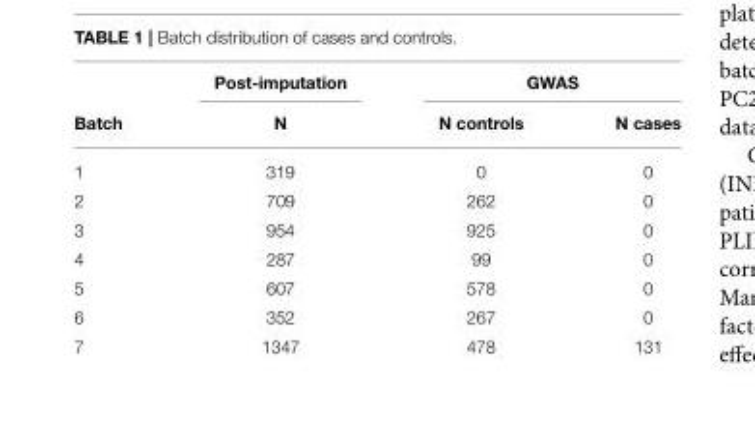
<table><thead><tr><td rowspan="2">Batch</td><td rowspan="2">Post-imputation N</td><td colspan="2">GWAS</td></tr><tr><td>N controls</td><td>N cases</td></tr></thead><tbody><tr><td>1</td><td>319</td><td>0</td><td>0</td></tr><tr><td>2</td><td>709</td><td>262</td><td>0</td></tr><tr><td>3</td><td>954</td><td>925</td><td>0</td></tr><tr><td>4</td><td>287</td><td>99</td><td>0</td></tr><tr><td>5</td><td>607</td><td>578</td><td>0</td></tr><tr><td>6</td><td>352</td><td>267</td><td>0</td></tr><tr><td>7</td><td>1347</td><td>478</td><td>131</td></tr></tbody></table>